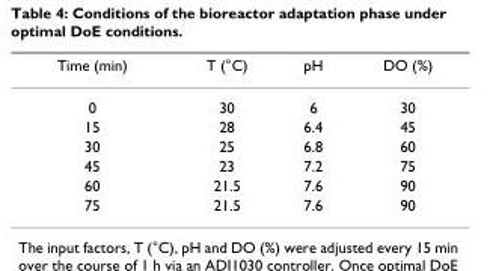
<table><thead><tr><td>Time (min)</td><td>T (°C)</td><td>pH</td><td>DO (%)</td></tr></thead><tbody><tr><td>0</td><td>30</td><td>6</td><td>30</td></tr><tr><td>15</td><td>28</td><td>6.4</td><td>45</td></tr><tr><td>30</td><td>25</td><td>6.8</td><td>60</td></tr><tr><td>45</td><td>23</td><td>7.2</td><td>75</td></tr><tr><td>60</td><td>21.5</td><td>7.6</td><td>90</td></tr><tr><td>75</td><td>21.5</td><td>7.6</td><td>90</td></tr></tbody></table>